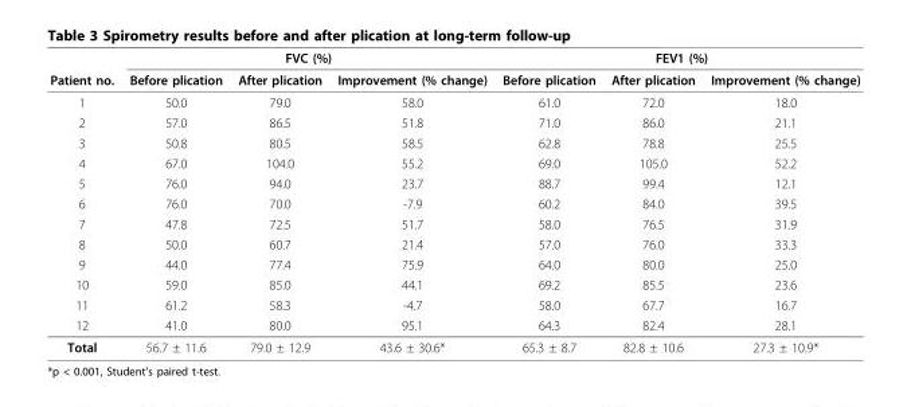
<table><thead><tr><td rowspan="2">Patient no.</td><td colspan="3">FVC (%)</td><td colspan="3">FEV1 (%)</td></tr><tr><td>Before plication</td><td>After plication</td><td>Improvement (% change)</td><td>Before plication</td><td>After plication</td><td>Improvement (% change)</td></tr></thead><tbody><tr><td>1</td><td>50.0</td><td>79.0</td><td>58.0</td><td>61.0</td><td>72.0</td><td>18.0</td></tr><tr><td>2</td><td>57.0</td><td>86.5</td><td>51.8</td><td>71.0</td><td>86.0</td><td>21.1</td></tr><tr><td>3</td><td>50.8</td><td>80.5</td><td>58.5</td><td>62.8</td><td>78.8</td><td>25.5</td></tr><tr><td>4</td><td>67.0</td><td>104.0</td><td>55.2</td><td>69.0</td><td>105.0</td><td>52.2</td></tr><tr><td>5</td><td>76.0</td><td>94.0</td><td>23.7</td><td>88.7</td><td>99.4</td><td>12.1</td></tr><tr><td>6</td><td>76.0</td><td>70.0</td><td>-7.9</td><td>60.2</td><td>84.0</td><td>39.5</td></tr><tr><td>7</td><td>47.8</td><td>72.5</td><td>51.7</td><td>58.0</td><td>76.5</td><td>31.9</td></tr><tr><td>8</td><td>50.0</td><td>60.7</td><td>21.4</td><td>57.0</td><td>76.0</td><td>33.3</td></tr><tr><td>9</td><td>44.0</td><td>77.4</td><td>75.9</td><td>64.0</td><td>80.0</td><td>25.0</td></tr><tr><td>10</td><td>59.0</td><td>85.0</td><td>44.1</td><td>69.2</td><td>85.5</td><td>23.6</td></tr><tr><td>11</td><td>61.2</td><td>58.3</td><td>-4.7</td><td>58.0</td><td>67.7</td><td>16.7</td></tr><tr><td>12</td><td>41.0</td><td>80.0</td><td>95.1</td><td>64.3</td><td>82.4</td><td>28.1</td></tr><tr><td>Total</td><td>56.7 ± 11.6</td><td>79.0 ± 12.9</td><td>43.6 ± 30.6*</td><td>65.3 ± 8.7</td><td>82.8 ± 10.6</td><td>27.3 ± 10.9*</td></tr></tbody></table>